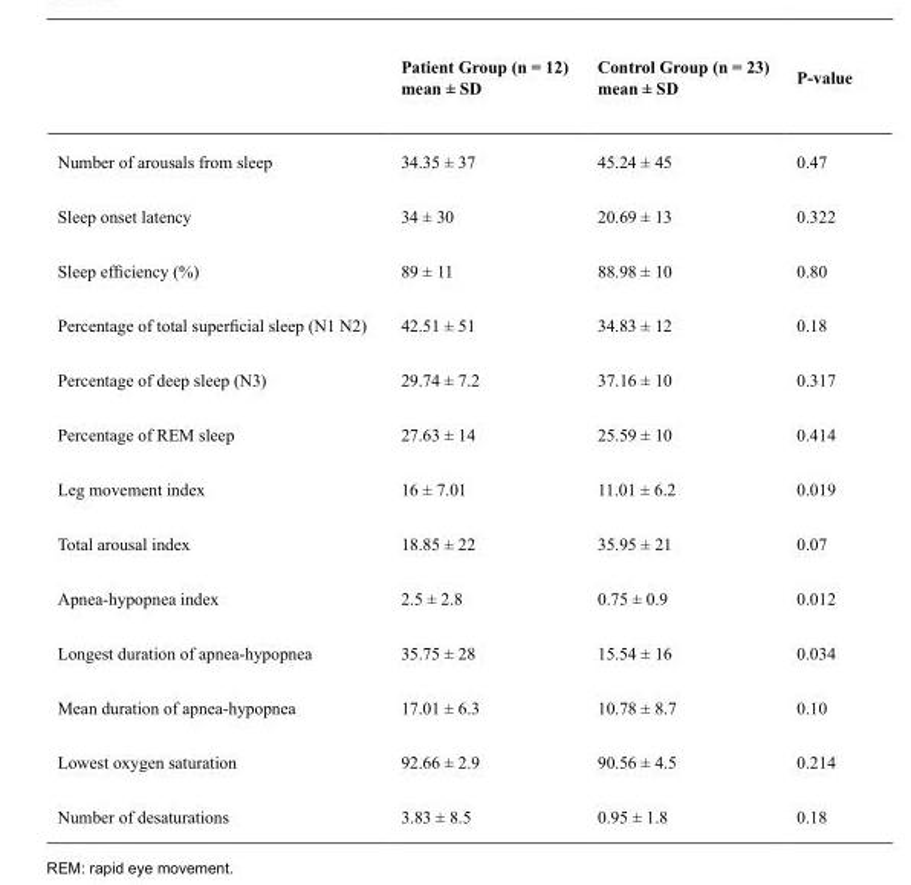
<table><thead><tr><td></td><td>Patient Group (n = 12) mean ± SD</td><td>Control Group (n = 23) mean ± SD</td><td>P-value</td></tr></thead><tbody><tr><td>Number of arousals from sleep</td><td>34.35 ± 37</td><td>45.24 ± 45</td><td>0.47</td></tr><tr><td>Sleep onset latency</td><td>34 ± 30</td><td>20.69 ± 13</td><td>0.322</td></tr><tr><td>Sleep efficiency (%)</td><td>89 ± 11</td><td>88.98 ± 10</td><td>0.80</td></tr><tr><td>Percentage of total superficial sleep (N1 N2)</td><td>42.51 ± 51</td><td>34.83 ± 12</td><td>0.18</td></tr><tr><td>Percentage of deep sleep (N3)</td><td>29.74 ± 7.2</td><td>37.16 ± 10</td><td>0.317</td></tr><tr><td>Percentage of REM sleep</td><td>27.63 ± 14</td><td>25.59 ± 10</td><td>0.414</td></tr><tr><td>Leg movement index</td><td>16 ± 7.01</td><td>11.01 ± 6.2</td><td>0.019</td></tr><tr><td>Total arousal index</td><td>18.85 ± 22</td><td>35.95 ± 21</td><td>0.07</td></tr><tr><td>Apnea-hypopnea index</td><td>2.5 ± 2.8</td><td>0.75 ± 0.9</td><td>0.012</td></tr><tr><td>Longest duration of apnea-hypopnea</td><td>35.75 ± 28</td><td>15.54 ± 16</td><td>0.034</td></tr><tr><td>Mean duration of apnea-hypopnea</td><td>17.01 ± 6.3</td><td>10.78 ± 8.7</td><td>0.10</td></tr><tr><td>Lowest oxygen saturation</td><td>92.66 ± 2.9</td><td>90.56 ± 4.5</td><td>0.214</td></tr><tr><td>Number of desaturations</td><td>3.83 ± 8.5</td><td>0.95 ± 1.8</td><td>0.18</td></tr></tbody></table>